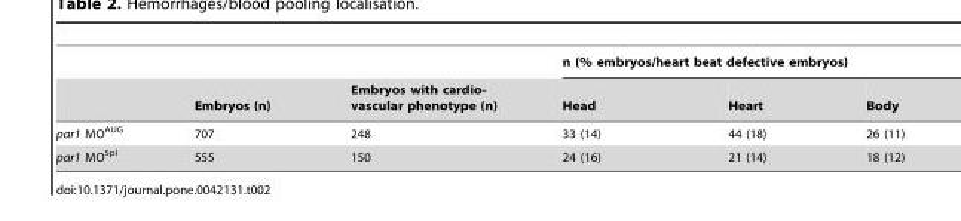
<table><thead><tr><td rowspan="2"></td><td rowspan="2">Embryos (n)</td><td rowspan="2">Embryos with cardio- vascular phenotype (n)</td><td colspan="3">n (% embryos/heart beat defective embryos)</td></tr><tr><td>Head</td><td>Heart</td><td>Body</td></tr></thead><tbody><tr><td>par1 MO<sup>AUG</sup></td><td>707</td><td>248</td><td>33 (14)</td><td>44 (18)</td><td>26 (11)</td></tr><tr><td>par1 MO<sup>Spl</sup></td><td>555</td><td>150</td><td>24 (16)</td><td>21 (14)</td><td>18 (12)</td></tr></tbody></table>